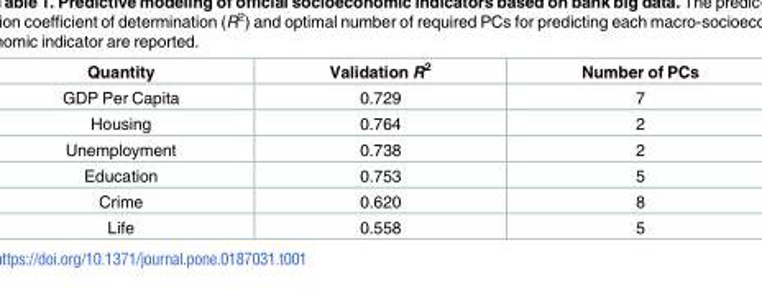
<table><thead><tr><td>Quantity</td><td>Validation R<sup>2</sup></td><td>Number of PCs</td></tr></thead><tbody><tr><td>GDP Per Capita</td><td>0.729</td><td>7</td></tr><tr><td>Housing</td><td>0.764</td><td>2</td></tr><tr><td>Unemployment</td><td>0.738</td><td>2</td></tr><tr><td>Education</td><td>0.753</td><td>5</td></tr><tr><td>Crime</td><td>0.620</td><td>8</td></tr><tr><td>Life</td><td>0.558</td><td>5</td></tr></tbody></table>